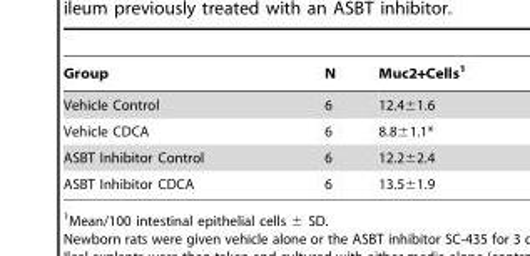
<table><thead><tr><td>Group</td><td>N</td><td>Muc2+Cells<sup>1</sup></td></tr></thead><tbody><tr><td>Vehicle Control</td><td>6</td><td>12.4±1.6</td></tr><tr><td>Vehicle CDCA</td><td>6</td><td>8.8±1.1*</td></tr><tr><td>ASBT Inhibitor Control</td><td>6</td><td>12.2±2.4</td></tr><tr><td>ASBT Inhibitor CDCA</td><td>6</td><td>13.5±1.9</td></tr></tbody></table>